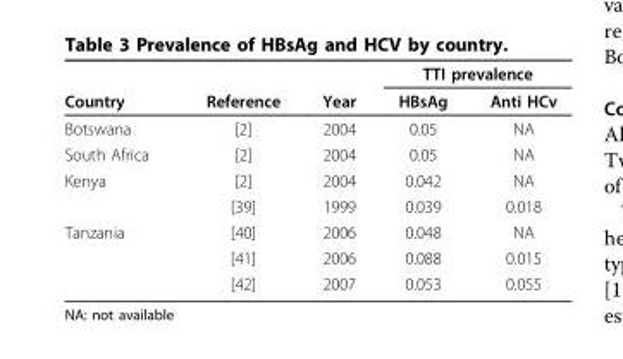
<table><thead><tr><td rowspan="2">Country</td><td rowspan="2">Reference</td><td rowspan="2">Year</td><td colspan="2">TTI prevalence</td></tr><tr><td>HBsAg</td><td>Anti HCv</td></tr></thead><tbody><tr><td>Botswana</td><td>[2]</td><td>2004</td><td>0.05</td><td>NA</td></tr><tr><td>South Africa</td><td>[2]</td><td>2004</td><td>0.05</td><td>NA</td></tr><tr><td rowspan="2">Kenya</td><td>[2]</td><td>2004</td><td>0.042</td><td>NA</td></tr><tr><td>[39]</td><td>1999</td><td>0.039</td><td>0.018</td></tr><tr><td rowspan="3">Tanzania</td><td>[40]</td><td>2006</td><td>0.048</td><td>NA</td></tr><tr><td>[41]</td><td>2006</td><td>0.088</td><td>0.015</td></tr><tr><td>[42]</td><td>2007</td><td>0.053</td><td>0.055</td></tr></tbody></table>